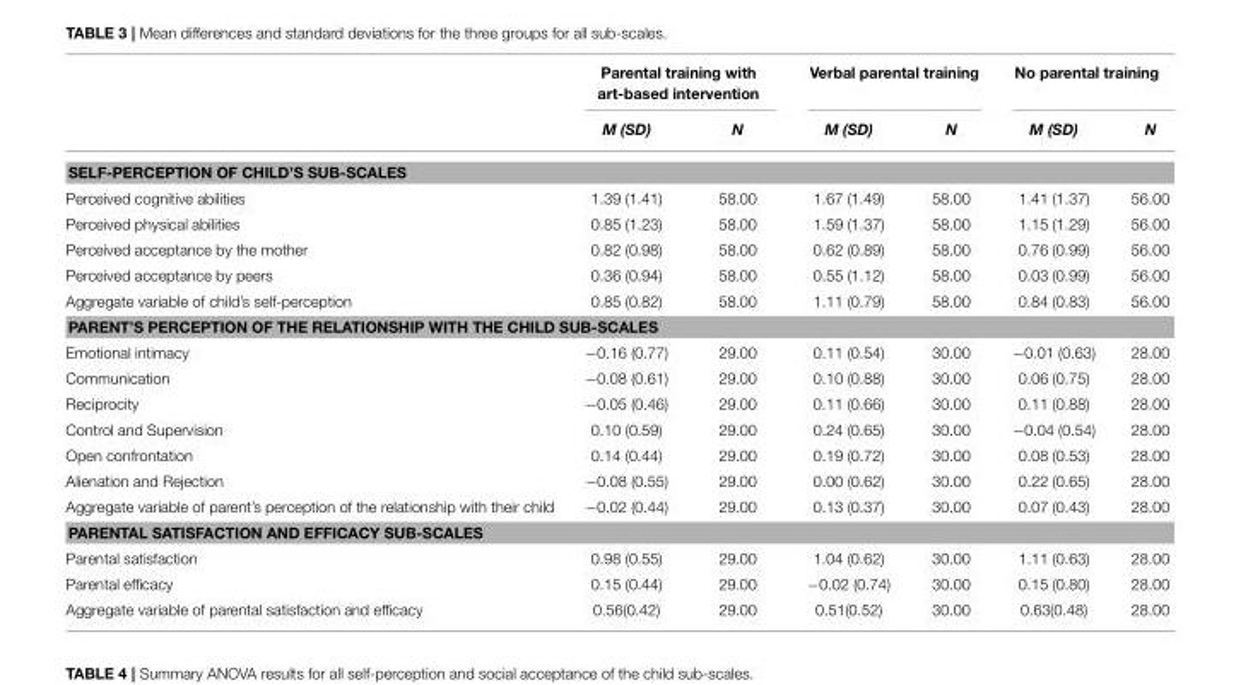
<table><thead><tr><td rowspan="2"></td><td colspan="2">Parental training with art-based intervention</td><td colspan="2">Verbal parental training</td><td colspan="2">No parental training</td></tr><tr><td>M (SD)</td><td>N</td><td>M (SD)</td><td>N</td><td>M (SD)</td><td>N</td></tr></thead><tbody><tr><td colspan="7">SELF-PERCEPTION OF CHILD’S SUB-SCALES</td></tr><tr><td>Perceived cognitive abilities</td><td>1.39 (1.41)</td><td>58.00</td><td>1.67 (1.49)</td><td>58.00</td><td>1.41 (1.37)</td><td>56.00</td></tr><tr><td>Perceived physical abilities</td><td>0.85 (1.23)</td><td>58.00</td><td>1.59 (1.37)</td><td>58.00</td><td>1.15 (1.29)</td><td>56.00</td></tr><tr><td>Perceived acceptance by the mother</td><td>0.82 (0.98)</td><td>58.00</td><td>0.62 (0.89)</td><td>58.00</td><td>0.76 (0.99)</td><td>56.00</td></tr><tr><td>Perceived acceptance by peers</td><td>0.36 (0.94)</td><td>58.00</td><td>0.55 (1.12)</td><td>58.00</td><td>0.03 (0.99)</td><td>56.00</td></tr><tr><td>Aggregate variable of child’s self-perception</td><td>0.85 (0.82)</td><td>58.00</td><td>1.11 (0.79)</td><td>58.00</td><td>0.84 (0.83)</td><td>56.00</td></tr><tr><td colspan="7">PARENT’S PERCEPTION OF THE RELATIONSHIP WITH THE CHILD SUB-SCALES</td></tr><tr><td>Emotional intimacy</td><td>−0.16 (0.77)</td><td>29.00</td><td>0.11 (0.54)</td><td>30.00</td><td>−0.01 (0.63)</td><td>28.00</td></tr><tr><td>Communication</td><td>−0.08 (0.61)</td><td>29.00</td><td>0.10 (0.88)</td><td>30.00</td><td>0.06 (0.75)</td><td>28.00</td></tr><tr><td>Reciprocity</td><td>−0.05 (0.46)</td><td>29.00</td><td>0.11 (0.66)</td><td>30.00</td><td>0.11 (0.88)</td><td>28.00</td></tr><tr><td>Control and Supervision</td><td>0.10 (0.59)</td><td>29.00</td><td>0.24 (0.65)</td><td>30.00</td><td>−0.04 (0.54)</td><td>28.00</td></tr><tr><td>Open confrontation</td><td>0.14 (0.44)</td><td>29.00</td><td>0.19 (0.72)</td><td>30.00</td><td>0.08 (0.53)</td><td>28.00</td></tr><tr><td>Alienation and Rejection</td><td>−0.08 (0.55)</td><td>29.00</td><td>0.00 (0.62)</td><td>30.00</td><td>0.22 (0.65)</td><td>28.00</td></tr><tr><td>Aggregate variable of parent’s perception of the relationship with their child</td><td>−0.02 (0.44)</td><td>29.00</td><td>0.13 (0.37)</td><td>30.00</td><td>0.07 (0.43)</td><td>28.00</td></tr><tr><td colspan="7">PARENTAL SATISFACTION AND EFFICACY SUB-SCALES</td></tr><tr><td>Parental satisfaction</td><td>0.98 (0.55)</td><td>29.00</td><td>1.04 (0.62)</td><td>30.00</td><td>1.11 (0.63)</td><td>28.00</td></tr><tr><td>Parental efficacy</td><td>0.15 (0.44)</td><td>29.00</td><td>−0.02 (0.74)</td><td>30.00</td><td>0.15 (0.80)</td><td>28.00</td></tr><tr><td>Aggregate variable of parental satisfaction and efficacy</td><td>0.56(0.42)</td><td>29.00</td><td>0.51(0.52)</td><td>30.00</td><td>0.63(0.48)</td><td>28.00</td></tr></tbody></table>